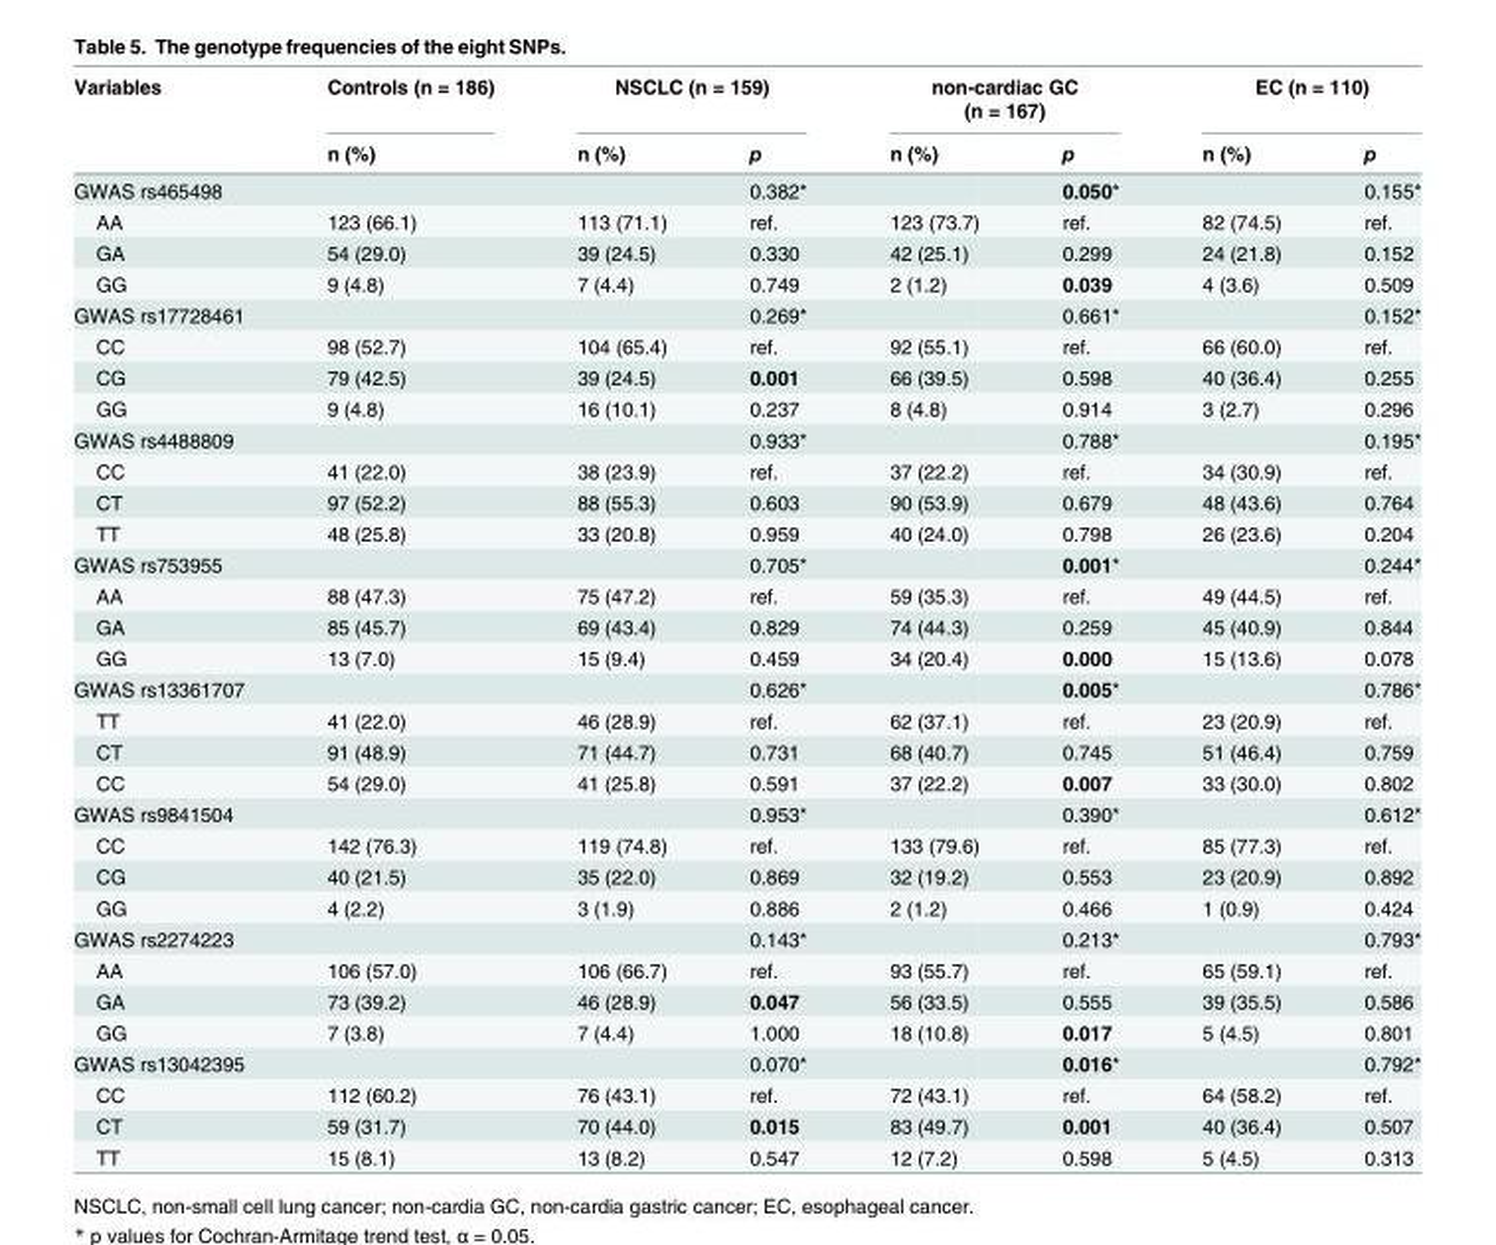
<table><thead><tr><td rowspan="2">Variables</td><td rowspan="2">Controls (n = 186) n (%)</td><td colspan="2">NSCLC (n = 159)</td><td colspan="2">non-cardiac GC (n = 167)</td><td colspan="2">EC (n = 110)</td></tr><tr><td>n (%)</td><td>p</td><td>n (%)</td><td>p</td><td>n (%)</td><td>p</td></tr></thead><tbody><tr><td>GWAS rs465498</td><td></td><td></td><td>0.382*</td><td></td><td>0.050*</td><td></td><td>0.155*</td></tr><tr><td>AA</td><td>123 (66.1)</td><td>113 (71.1)</td><td>ref.</td><td>123 (73.7)</td><td>ref.</td><td>82 (74.5)</td><td>ref.</td></tr><tr><td>GA</td><td>54 (29.0)</td><td>39 (24.5)</td><td>0.330</td><td>42 (25.1)</td><td>0.299</td><td>24 (21.8)</td><td>0.152</td></tr><tr><td>GG</td><td>9 (4.8)</td><td>7 (4.4)</td><td>0.749</td><td>2 (1.2)</td><td>0.039</td><td>4 (3.6)</td><td>0.509</td></tr><tr><td>GWAS rs17728461</td><td></td><td></td><td>0.269*</td><td></td><td>0.661*</td><td></td><td>0.152*</td></tr><tr><td>CC</td><td>98 (52.7)</td><td>104 (65.4)</td><td>ref.</td><td>92 (55.1)</td><td>ref.</td><td>66 (60.0)</td><td>ref.</td></tr><tr><td>CG</td><td>79 (42.5)</td><td>39 (24.5)</td><td>0.001</td><td>66 (39.5)</td><td>0.598</td><td>40 (36.4)</td><td>0.255</td></tr><tr><td>GG</td><td>9 (4.8)</td><td>16 (10.1)</td><td>0.237</td><td>8 (4.8)</td><td>0.914</td><td>3 (2.7)</td><td>0.296</td></tr><tr><td>GWAS rs4488809</td><td></td><td></td><td>0.933*</td><td></td><td>0.788*</td><td></td><td>0.195*</td></tr><tr><td>CC</td><td>41 (22.0)</td><td>38 (23.9)</td><td>ref.</td><td>37 (22.2)</td><td>ref.</td><td>34 (30.9)</td><td>ref.</td></tr><tr><td>CT</td><td>97 (52.2)</td><td>88 (55.3)</td><td>0.603</td><td>90 (53.9)</td><td>0.679</td><td>48 (43.6)</td><td>0.764</td></tr><tr><td>TT</td><td>48 (25.8)</td><td>33 (20.8)</td><td>0.959</td><td>40 (24.0)</td><td>0.798</td><td>26 (23.6)</td><td>0.204</td></tr><tr><td>GWAS rs753955</td><td></td><td></td><td>0.705*</td><td></td><td>0.001*</td><td></td><td>0.244*</td></tr><tr><td>AA</td><td>88 (47.3)</td><td>75 (47.2)</td><td>ref.</td><td>59 (35.3)</td><td>ref.</td><td>49 (44.5)</td><td>ref.</td></tr><tr><td>GA</td><td>85 (45.7)</td><td>69 (43.4)</td><td>0.829</td><td>74 (44.3)</td><td>0.259</td><td>45 (40.9)</td><td>0.844</td></tr><tr><td>GG</td><td>13 (7.0)</td><td>15 (9.4)</td><td>0.459</td><td>34 (20.4)</td><td>0.000</td><td>15 (13.6)</td><td>0.078</td></tr><tr><td>GWAS rs13361707</td><td></td><td></td><td>0.626*</td><td></td><td>0.005*</td><td></td><td>0.786*</td></tr><tr><td>TT</td><td>41 (22.0)</td><td>46 (28.9)</td><td>ref.</td><td>62 (37.1)</td><td>ref.</td><td>23 (20.9)</td><td>ref.</td></tr><tr><td>CT</td><td>91 (48.9)</td><td>71 (44.7)</td><td>0.731</td><td>68 (40.7)</td><td>0.745</td><td>51 (46.4)</td><td>0.759</td></tr><tr><td>CC</td><td>54 (29.0)</td><td>41 (25.8)</td><td>0.591</td><td>37 (22.2)</td><td>0.007</td><td>33 (30.0)</td><td>0.802</td></tr><tr><td>GWAS rs9841504</td><td></td><td></td><td>0.953*</td><td></td><td>0.390*</td><td></td><td>0.612*</td></tr><tr><td>CC</td><td>142 (76.3)</td><td>119 (74.8)</td><td>ref.</td><td>133 (79.6)</td><td>ref.</td><td>85 (77.3)</td><td>ref.</td></tr><tr><td>CG</td><td>40 (21.5)</td><td>35 (22.0)</td><td>0.869</td><td>32 (19.2)</td><td>0.553</td><td>23 (20.9)</td><td>0.892</td></tr><tr><td>GG</td><td>4 (2.2)</td><td>3 (1.9)</td><td>0.886</td><td>2 (1.2)</td><td>0.466</td><td>1 (0.9)</td><td>0.424</td></tr><tr><td>GWAS rs2274223</td><td></td><td></td><td>0.143*</td><td></td><td>0.213*</td><td></td><td>0.793*</td></tr><tr><td>AA</td><td>106 (57.0)</td><td>106 (66.7)</td><td>ref.</td><td>93 (55.7)</td><td>ref.</td><td>65 (59.1)</td><td>ref.</td></tr><tr><td>GA</td><td>73 (39.2)</td><td>46 (28.9)</td><td>0.047</td><td>56 (33.5)</td><td>0.555</td><td>39 (35.5)</td><td>0.586</td></tr><tr><td>GG</td><td>7 (3.8)</td><td>7 (4.4)</td><td>1.000</td><td>18 (10.8)</td><td>0.017</td><td>5 (4.5)</td><td>0.801</td></tr><tr><td>GWAS rs13042395</td><td></td><td></td><td>0.070*</td><td></td><td>0.016*</td><td></td><td>0.792*</td></tr><tr><td>CC</td><td>112 (60.2)</td><td>76 (43.1)</td><td>ref.</td><td>72 (43.1)</td><td>ref.</td><td>64 (58.2)</td><td>ref.</td></tr><tr><td>CT</td><td>59 (31.7)</td><td>70 (44.0)</td><td>0.015</td><td>83 (49.7)</td><td>0.001</td><td>40 (36.4)</td><td>0.507</td></tr><tr><td>TT</td><td>15 (8.1)</td><td>13 (8.2)</td><td>0.547</td><td>12 (7.2)</td><td>0.598</td><td>5 (4.5)</td><td>0.313</td></tr></tbody></table>